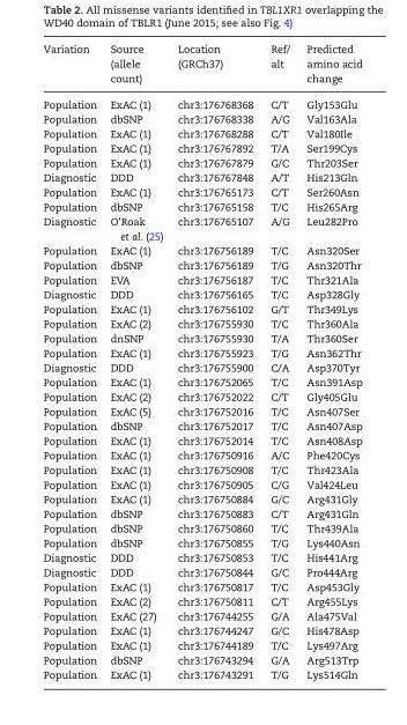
<table><thead><tr><td>Variation</td><td>Source (allele count)</td><td>Location (GRCh37)</td><td>Ref/ alt</td><td>Predicted amino acid change</td></tr></thead><tbody><tr><td>Population</td><td>ExAC (1)</td><td>chr3:176768368</td><td>C/T</td><td>Gly153Glu</td></tr><tr><td>Population</td><td>dbSNP</td><td>chr3:176768338</td><td>A/G</td><td>Val163Ala</td></tr><tr><td>Population</td><td>ExAC (1)</td><td>chr3:176768288</td><td>C/T</td><td>Val180Ile</td></tr><tr><td>Population</td><td>ExAC (1)</td><td>chr3:176767892</td><td>T/A</td><td>Ser199Cys</td></tr><tr><td>Population</td><td>ExAC (1)</td><td>chr3:176767879</td><td>G/C</td><td>Thr203Ser</td></tr><tr><td>Diagnostic</td><td>DDD</td><td>chr3:176767848</td><td>A/T</td><td>His213Gln</td></tr><tr><td>Population</td><td>ExAC (1)</td><td>chr3:176765173</td><td>C/T</td><td>Ser260Asn</td></tr><tr><td>Population</td><td>dbSNP</td><td>chr3:176765158</td><td>T/C</td><td>His265Arg</td></tr><tr><td>Diagnostic</td><td>O’Roak et al. (25)</td><td>chr3:176765107</td><td>A/G</td><td>Leu282Pro</td></tr><tr><td>Population</td><td>ExAC (1)</td><td>chr3:176756189</td><td>T/C</td><td>Asn320Ser</td></tr><tr><td>Population</td><td>dbSNP</td><td>chr3:176756189</td><td>T/G</td><td>Asn320Thr</td></tr><tr><td>Population</td><td>EVA</td><td>chr3:176756187</td><td>T/C</td><td>Thr321Ala</td></tr><tr><td>Diagnostic</td><td>DDD</td><td>chr3:176756165</td><td>T/C</td><td>Asp328Gly</td></tr><tr><td>Population</td><td>ExAC (1)</td><td>chr3:176756102</td><td>G/T</td><td>Thr349Lys</td></tr><tr><td>Population</td><td>ExAC (2)</td><td>chr3:176755930</td><td>T/C</td><td>Thr360Ala</td></tr><tr><td>Population</td><td>dnSNP</td><td>chr3:176755930</td><td>T/A</td><td>Thr360Ser</td></tr><tr><td>Population</td><td>ExAC (1)</td><td>chr3:176755923</td><td>T/G</td><td>Asn362Thr</td></tr><tr><td>Diagnostic</td><td>DDD</td><td>chr3:176755900</td><td>C/A</td><td>Asp370Tyr</td></tr><tr><td>Population</td><td>ExAC (1)</td><td>chr3:176752065</td><td>T/C</td><td>Asn391Asp</td></tr><tr><td>Population</td><td>ExAC (2)</td><td>chr3:176752022</td><td>C/T</td><td>Gly405Glu</td></tr><tr><td>Population</td><td>ExAC (5)</td><td>chr3:176752016</td><td>T/C</td><td>Asn407Ser</td></tr><tr><td>Population</td><td>dbSNP</td><td>chr3:176752017</td><td>T/C</td><td>Asn407Asp</td></tr><tr><td>Population</td><td>ExAC (1)</td><td>chr3:176752014</td><td>T/C</td><td>Asn408Asp</td></tr><tr><td>Population</td><td>ExAC (1)</td><td>chr3:176750916</td><td>A/C</td><td>Phe420Cys</td></tr><tr><td>Population</td><td>ExAC (1)</td><td>chr3:176750908</td><td>T/C</td><td>Thr423Ala</td></tr><tr><td>Population</td><td>ExAC (1)</td><td>chr3:176750905</td><td>C/G</td><td>Val424Leu</td></tr><tr><td>Population</td><td>ExAC (1)</td><td>chr3:176750884</td><td>G/C</td><td>Arg431Gly</td></tr><tr><td>Population</td><td>dbSNP</td><td>chr3:176750883</td><td>C/T</td><td>Arg431Gln</td></tr><tr><td>Population</td><td>dbSNP</td><td>chr3:176750860</td><td>T/C</td><td>Thr439Ala</td></tr><tr><td>Population</td><td>dbSNP</td><td>chr3:176750855</td><td>T/G</td><td>Lys440Asn</td></tr><tr><td>Diagnostic</td><td>DDD</td><td>chr3:176750853</td><td>T/C</td><td>His441Arg</td></tr><tr><td>Diagnostic</td><td>DDD</td><td>chr3:176750844</td><td>G/C</td><td>Pro444Arg</td></tr><tr><td>Population</td><td>ExAC (1)</td><td>chr3:176750817</td><td>T/C</td><td>Asp453Gly</td></tr><tr><td>Population</td><td>ExAC (2)</td><td>chr3:176750811</td><td>C/T</td><td>Arg455Lys</td></tr><tr><td>Population</td><td>ExAC (27)</td><td>chr3:176744255</td><td>G/A</td><td>Ala475Val</td></tr><tr><td>Population</td><td>ExAC (1)</td><td>chr3:176744247</td><td>G/C</td><td>His478Asp</td></tr><tr><td>Population</td><td>ExAC (1)</td><td>chr3:176744189</td><td>T/C</td><td>Lys497Arg</td></tr><tr><td>Population</td><td>dbSNP</td><td>chr3:176743294</td><td>G/A</td><td>Arg513Trp</td></tr><tr><td>Population</td><td>ExAC (1)</td><td>chr3:176743291</td><td>T/G</td><td>Lys514Gln</td></tr></tbody></table>